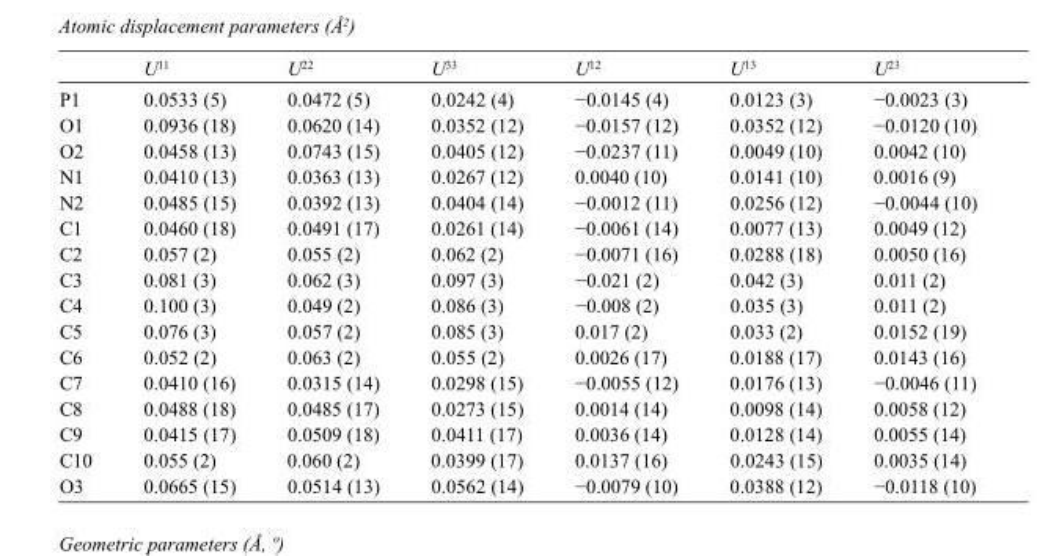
<table><thead><tr><td></td><td>U<sup>11</sup></td><td>U<sup>22</sup></td><td>U<sup>33</sup></td><td>U<sup>12</sup></td><td>U<sup>13</sup></td><td>U<sup>23</sup></td></tr></thead><tbody><tr><td>P1</td><td>0.0533 (5)</td><td>0.0472 (5)</td><td>0.0242 (4)</td><td>−0.0145 (4)</td><td>0.0123 (3)</td><td>−0.0023 (3)</td></tr><tr><td>O1</td><td>0.0936 (18)</td><td>0.0620 (14)</td><td>0.0352 (12)</td><td>−0.0157 (12)</td><td>0.0352 (12)</td><td>−0.0120 (10)</td></tr><tr><td>O2</td><td>0.0458 (13)</td><td>0.0743 (15)</td><td>0.0405 (12)</td><td>−0.0237 (11)</td><td>0.0049 (10)</td><td>0.0042 (10)</td></tr><tr><td>N1</td><td>0.0410 (13)</td><td>0.0363 (13)</td><td>0.0267 (12)</td><td>0.0040 (10)</td><td>0.0141 (10)</td><td>0.0016 (9)</td></tr><tr><td>N2</td><td>0.0485 (15)</td><td>0.0392 (13)</td><td>0.0404 (14)</td><td>−0.0012 (11)</td><td>0.0256 (12)</td><td>−0.0044 (10)</td></tr><tr><td>C1</td><td>0.0460 (18)</td><td>0.0491 (17)</td><td>0.0261 (14)</td><td>−0.0061 (14)</td><td>0.0077 (13)</td><td>0.0049 (12)</td></tr><tr><td>C2</td><td>0.057 (2)</td><td>0.055 (2)</td><td>0.062 (2)</td><td>−0.0071 (16)</td><td>0.0288 (18)</td><td>0.0050 (16)</td></tr><tr><td>C3</td><td>0.081 (3)</td><td>0.062 (3)</td><td>0.097 (3)</td><td>−0.021 (2)</td><td>0.042 (3)</td><td>0.011 (2)</td></tr><tr><td>C4</td><td>0.100 (3)</td><td>0.049 (2)</td><td>0.086 (3)</td><td>−0.008 (2)</td><td>0.035 (3)</td><td>0.011 (2)</td></tr><tr><td>C5</td><td>0.076 (3)</td><td>0.057 (2)</td><td>0.085 (3)</td><td>0.017 (2)</td><td>0.033 (2)</td><td>0.0152 (19)</td></tr><tr><td>C6</td><td>0.052 (2)</td><td>0.063 (2)</td><td>0.055 (2)</td><td>0.0026 (17)</td><td>0.0188 (17)</td><td>0.0143 (16)</td></tr><tr><td>C7</td><td>0.0410 (16)</td><td>0.0315 (14)</td><td>0.0298 (15)</td><td>−0.0055 (12)</td><td>0.0176 (13)</td><td>−0.0046 (11)</td></tr><tr><td>C8</td><td>0.0488 (18)</td><td>0.0485 (17)</td><td>0.0273 (15)</td><td>0.0014 (14)</td><td>0.0098 (14)</td><td>0.0058 (12)</td></tr><tr><td>C9</td><td>0.0415 (17)</td><td>0.0509 (18)</td><td>0.0411 (17)</td><td>0.0036 (14)</td><td>0.0128 (14)</td><td>0.0055 (14)</td></tr><tr><td>C10</td><td>0.055 (2)</td><td>0.060 (2)</td><td>0.0399 (17)</td><td>0.0137 (16)</td><td>0.0243 (15)</td><td>0.0035 (14)</td></tr><tr><td>O3</td><td>0.0665 (15)</td><td>0.0514 (13)</td><td>0.0562 (14)</td><td>−0.0079 (10)</td><td>0.0388 (12)</td><td>−0.0118 (10)</td></tr></tbody></table>